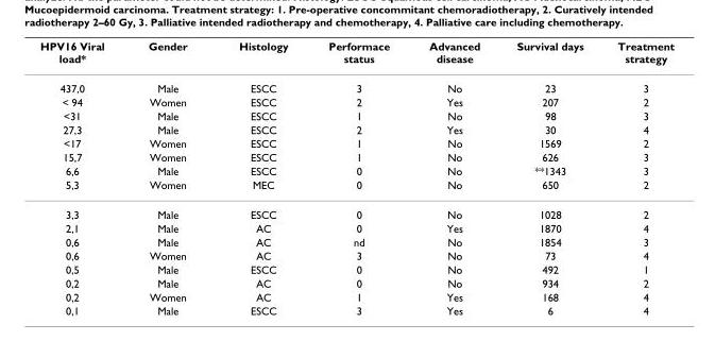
<table><thead><tr><td>HPV16 Viral load*</td><td>Gender</td><td>Histology</td><td>Performace status</td><td>Advanced disease</td><td>Survival days</td><td>Treatment strategy</td></tr></thead><tbody><tr><td>437,0</td><td>Male</td><td>ESCC</td><td>3</td><td>No</td><td>23</td><td>3</td></tr><tr><td>&lt; 94</td><td>Women</td><td>ESCC</td><td>2</td><td>Yes</td><td>207</td><td>2</td></tr><tr><td>&lt;31</td><td>Male</td><td>ESCC</td><td>1</td><td>No</td><td>98</td><td>3</td></tr><tr><td>27,3</td><td>Male</td><td>ESCC</td><td>2</td><td>Yes</td><td>30</td><td>4</td></tr><tr><td>&lt;17</td><td>Women</td><td>ESCC</td><td>1</td><td>No</td><td>1569</td><td>2</td></tr><tr><td>15,7</td><td>Women</td><td>ESCC</td><td>1</td><td>No</td><td>626</td><td>3</td></tr><tr><td>6,6</td><td>Male</td><td>ESCC</td><td>0</td><td>No</td><td>**1343</td><td>3</td></tr><tr><td>5,3</td><td>Women</td><td>MEC</td><td>0</td><td>No</td><td>650</td><td>2</td></tr><tr><td>3,3</td><td>Male</td><td>ESCC</td><td>0</td><td>No</td><td>1028</td><td>2</td></tr><tr><td>2,1</td><td>Male</td><td>AC</td><td>0</td><td>Yes</td><td>1870</td><td>4</td></tr><tr><td>0,6</td><td>Male</td><td>AC</td><td>nd</td><td>No</td><td>1854</td><td>3</td></tr><tr><td>0,6</td><td>Women</td><td>AC</td><td>3</td><td>No</td><td>73</td><td>4</td></tr><tr><td>0,5</td><td>Male</td><td>ESCC</td><td>0</td><td>No</td><td>492</td><td>1</td></tr><tr><td>0,2</td><td>Male</td><td>AC</td><td>0</td><td>No</td><td>934</td><td>2</td></tr><tr><td>0,2</td><td>Women</td><td>AC</td><td>1</td><td>Yes</td><td>168</td><td>4</td></tr><tr><td>0,1</td><td>Male</td><td>ESCC</td><td>3</td><td>Yes</td><td>6</td><td>4</td></tr></tbody></table>